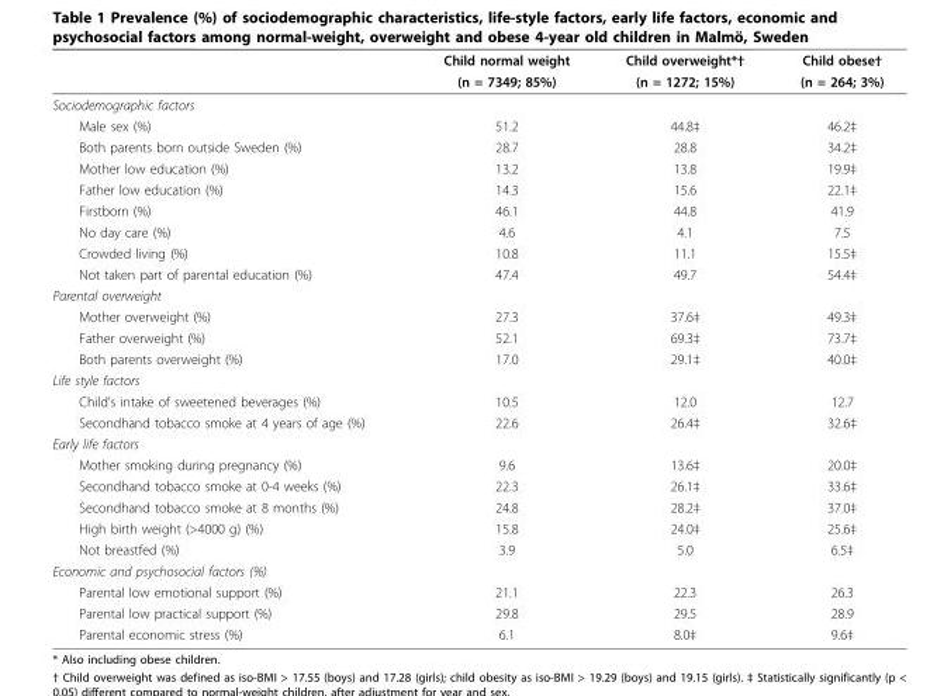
<table><thead><tr><td rowspan="2"></td><td rowspan="2">Child normal weight (n = 7349; 85%)</td><td rowspan="2">Child overweight*† (n = 1272; 15%)</td><td rowspan="2">Child obese† (n = 264; 3%)</td></tr><tr></tr></thead><tbody><tr><td colspan="4">Sociodemographic factors</td></tr><tr><td>Male sex (%)</td><td>51.2</td><td>44.8‡</td><td>46.2‡</td></tr><tr><td>Both parents born outside Sweden (%)</td><td>28.7</td><td>28.8</td><td>34.2‡</td></tr><tr><td>Mother low education (%)</td><td>13.2</td><td>13.8</td><td>19.9‡</td></tr><tr><td>Father low education (%)</td><td>14.3</td><td>15.6</td><td>22.1‡</td></tr><tr><td>Firstborn (%)</td><td>46.1</td><td>44.8</td><td>41.9</td></tr><tr><td>No day care (%)</td><td>4.6</td><td>4.1</td><td>7.5</td></tr><tr><td>Crowded living (%)</td><td>10.8</td><td>11.1</td><td>15.5‡</td></tr><tr><td>Not taken part of parental education (%)</td><td>47.4</td><td>49.7</td><td>54.4‡</td></tr><tr><td colspan="4">Parental overweight</td></tr><tr><td>Mother overweight (%)</td><td>27.3</td><td>37.6‡</td><td>49.3‡</td></tr><tr><td>Father overweight (%)</td><td>52.1</td><td>69.3‡</td><td>73.7‡</td></tr><tr><td>Both parents overweight (%)</td><td>17.0</td><td>29.1‡</td><td>40.0‡</td></tr><tr><td colspan="4">Life style factors</td></tr><tr><td>Child’s intake of sweetened beverages (%)</td><td>10.5</td><td>12.0</td><td>12.7</td></tr><tr><td>Secondhand tobacco smoke at 4 years of age (%)</td><td>22.6</td><td>26.4‡</td><td>32.6‡</td></tr><tr><td colspan="4">Early life factors</td></tr><tr><td>Mother smoking during pregnancy (%)</td><td>9.6</td><td>13.6‡</td><td>20.0‡</td></tr><tr><td>Secondhand tobacco smoke at 0-4 weeks (%)</td><td>22.3</td><td>26.1‡</td><td>33.6‡</td></tr><tr><td>Secondhand tobacco smoke at 8 months (%)</td><td>24.8</td><td>28.2‡</td><td>37.0‡</td></tr><tr><td>High birth weight (&gt;4000 g) (%)</td><td>15.8</td><td>24.0‡</td><td>25.6‡</td></tr><tr><td>Not breastfed (%)</td><td>3.9</td><td>5.0</td><td>6.5‡</td></tr><tr><td colspan="4">Economic and psychosocial factors (%)</td></tr><tr><td>Parental low emotional support (%)</td><td>21.1</td><td>22.3</td><td>26.3</td></tr><tr><td>Parental low practical support (%)</td><td>29.8</td><td>29.5</td><td>28.9</td></tr><tr><td>Parental economic stress (%)</td><td>6.1</td><td>8.0‡</td><td>9.6‡</td></tr></tbody></table>